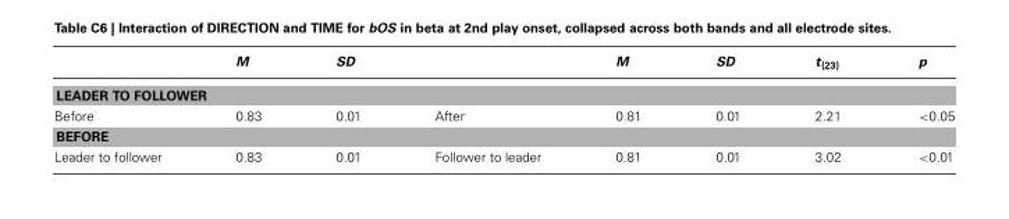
<table><thead><tr><td></td><td>M</td><td>SD</td><td></td><td>M</td><td>SD</td><td>t<sub>(23)</sub></td><td>p</td></tr></thead><tbody><tr><td colspan="8">LEADER TO FOLLOWER</td></tr><tr><td>Before</td><td>0.83</td><td>0.01</td><td>After</td><td>0.81</td><td>0.01</td><td>2.21</td><td>&lt;0.05</td></tr><tr><td colspan="8">BEFORE</td></tr><tr><td>Leader to follower</td><td>0.83</td><td>0.01</td><td>Follower to leader</td><td>0.81</td><td>0.01</td><td>3.02</td><td>&lt;0.01</td></tr></tbody></table>